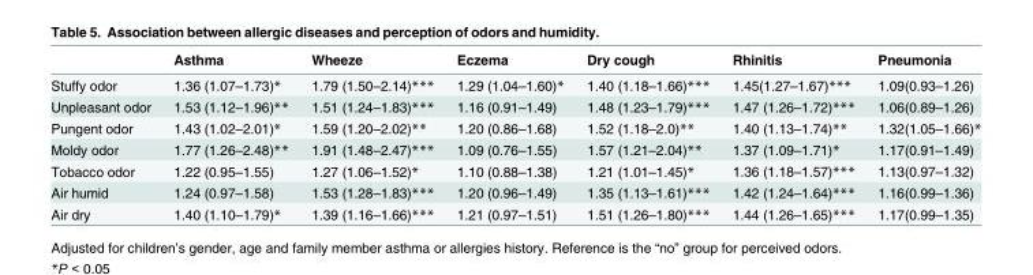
<table><thead><tr><td></td><td>Asthma</td><td>Wheeze</td><td>Eczema</td><td>Dry cough</td><td>Rhinitis</td><td>Pneumonia</td></tr></thead><tbody><tr><td>Stuffy odor</td><td>1.36 (1.07–1.73)*</td><td>1.79 (1.50–2.14)***</td><td>1.29 (1.04–1.60)*</td><td>1.40 (1.18–1.66)***</td><td>1.45(1.27–1.67)***</td><td>1.09(0.93–1.26)</td></tr><tr><td>Unpleasant odor</td><td>1.53 (1.12–1.96)**</td><td>1.51 (1.24–1.83)***</td><td>1.16 (0.91–1.49)</td><td>1.48 (1.23–1.79)***</td><td>1.47 (1.26–1.72)***</td><td>1.06(0.89–1.26)</td></tr><tr><td>Pungent odor</td><td>1.43 (1.02–2.01)*</td><td>1.59 (1.20–2.02)**</td><td>1.20 (0.86–1.68)</td><td>1.52 (1.18–2.0)**</td><td>1.40 (1.13–1.74)**</td><td>1.32(1.05–1.66)*</td></tr><tr><td>Moldy odor</td><td>1.77 (1.26–2.48)**</td><td>1.91 (1.48–2.47)***</td><td>1.09 (0.76–1.55)</td><td>1.57 (1.21–2.04)**</td><td>1.37 (1.09–1.71)*</td><td>1.17(0.91–1.49)</td></tr><tr><td>Tobacco odor</td><td>1.22 (0.95–1.55)</td><td>1.27 (1.06–1.52)*</td><td>1.10 (0.88–1.38)</td><td>1.21 (1.01–1.45)*</td><td>1.36 (1.18–1.57)***</td><td>1.13(0.97–1.32)</td></tr><tr><td>Air humid</td><td>1.24 (0.97–1.58)</td><td>1.53 (1.28–1.83)***</td><td>1.20 (0.96–1.49)</td><td>1.35 (1.13–1.61)***</td><td>1.42 (1.24–1.64)***</td><td>1.16(0.99–1.36)</td></tr><tr><td>Air dry</td><td>1.40 (1.10–1.79)*</td><td>1.39 (1.16–1.66)***</td><td>1.21 (0.97–1.51)</td><td>1.51 (1.26–1.80)***</td><td>1.44 (1.26–1.65)***</td><td>1.17(0.99–1.35)</td></tr></tbody></table>